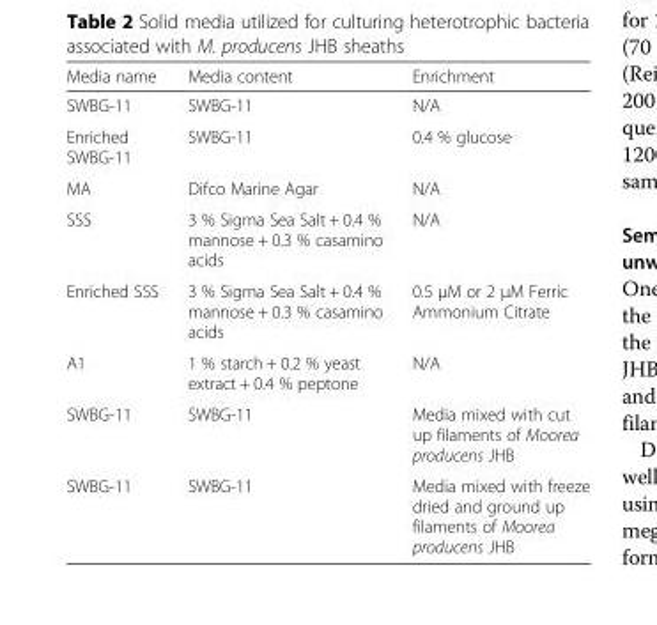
<table><thead><tr><td>Media name</td><td>Media content</td><td>Enrichment</td></tr></thead><tbody><tr><td>SWBG-11</td><td>SWBG-11</td><td>N/A</td></tr><tr><td>Enriched SWBG-11</td><td>SWBG-11</td><td>0.4 % glucose</td></tr><tr><td>MA</td><td>Difco Marine Agar</td><td>N/A</td></tr><tr><td>SSS</td><td>3 % Sigma Sea Salt + 0.4 % mannose + 0.3 % casamino acids</td><td>N/A</td></tr><tr><td>Enriched SSS</td><td>3 % Sigma Sea Salt + 0.4 % mannose + 0.3 % casamino acids</td><td>0.5 μM or 2 μM Ferric Ammonium Citrate</td></tr><tr><td>A1</td><td>1 % starch + 0.2 % yeast extract + 0.4 % peptone</td><td>N/A</td></tr><tr><td>SWBG-11</td><td>SWBG-11</td><td>Media mixed with cut up filaments of Moorea producens JHB</td></tr><tr><td>SWBG-11</td><td>SWBG-11</td><td>Media mixed with freeze dried and ground up filaments of Moorea producens JHB</td></tr></tbody></table>